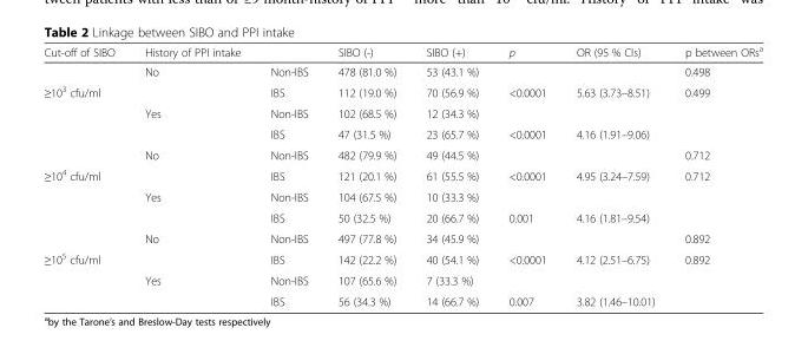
<table><thead><tr><td>Cut-off of SIBO</td><td>History of PPI intake</td><td></td><td>SIBO (-)</td><td>SIBO (+)</td><td>p</td><td>OR (95 % CIs)</td><td>p between ORs<sup>a</sup></td></tr></thead><tbody><tr><td></td><td>No</td><td>Non-IBS</td><td>478 (81.0 %)</td><td>53 (43.1 %)</td><td></td><td></td><td>0.498</td></tr><tr><td rowspan="4">≥10<sup>3</sup> cfu/ml</td><td></td><td>IBS</td><td>112 (19.0 %)</td><td>70 (56.9 %)</td><td>&lt;0.0001</td><td>5.63 (3.73–8.51)</td><td>0.499</td></tr><tr><td>Yes</td><td>Non-IBS</td><td>102 (68.5 %)</td><td>12 (34.3 %)</td><td></td><td></td><td></td></tr><tr><td></td><td>IBS</td><td>47 (31.5 %)</td><td>23 (65.7 %)</td><td>&lt;0.0001</td><td>4.16 (1.91–9.06)</td><td></td></tr><tr><td>No</td><td>Non-IBS</td><td>482 (79.9 %)</td><td>49 (44.5 %)</td><td></td><td></td><td>0.712</td></tr><tr><td rowspan="4">≥10<sup>4</sup> cfu/ml</td><td></td><td>IBS</td><td>121 (20.1 %)</td><td>61 (55.5 %)</td><td>&lt;0.0001</td><td>4.95 (3.24–7.59)</td><td>0.712</td></tr><tr><td>Yes</td><td>Non-IBS</td><td>104 (67.5 %)</td><td>10 (33.3 %)</td><td></td><td></td><td></td></tr><tr><td></td><td>IBS</td><td>50 (32.5 %)</td><td>20 (66.7 %)</td><td>0.001</td><td>4.16 (1.81–9.54)</td><td></td></tr><tr><td>No</td><td>Non-IBS</td><td>497 (77.8 %)</td><td>34 (45.9 %)</td><td></td><td></td><td>0.892</td></tr><tr><td rowspan="3">≥10<sup>5</sup> cfu/ml</td><td></td><td>IBS</td><td>142 (22.2 %)</td><td>40 (54.1 %)</td><td>&lt;0.0001</td><td>4.12 (2.51–6.75)</td><td>0.892</td></tr><tr><td>Yes</td><td>Non-IBS</td><td>107 (65.6 %)</td><td>7 (33.3 %)</td><td></td><td></td><td></td></tr><tr><td></td><td>IBS</td><td>56 (34.3 %)</td><td>14 (66.7 %)</td><td>0.007</td><td>3.82 (1.46–10.01)</td><td></td></tr></tbody></table>